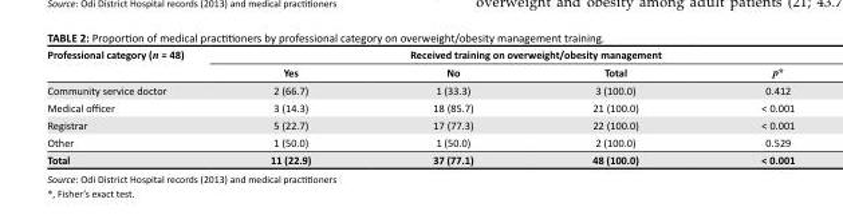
<table><thead><tr><td rowspan="2">Professional category (n = 48)</td><td colspan="4">Received training on overweight/obesity management</td></tr><tr><td>Yes</td><td>No</td><td>Total</td><td>p*</td></tr></thead><tbody><tr><td>Community service doctor</td><td>2 (66.7)</td><td>1 (33.3)</td><td>3 (100.0)</td><td>0.412</td></tr><tr><td>Medical officer</td><td>3 (14.3)</td><td>18 (85.7)</td><td>21 (100.0)</td><td>&lt; 0.001</td></tr><tr><td>Registrar</td><td>5 (22.7)</td><td>17 (77.3)</td><td>22 (100.0)</td><td>&lt; 0.001</td></tr><tr><td>Other</td><td>1 (50.0)</td><td>1 (50.0)</td><td>2 (100.0)</td><td>0.529</td></tr><tr><td>Total</td><td>11 (22.9)</td><td>37 (77.1)</td><td>48 (100.0)</td><td>&lt; 0.001</td></tr></tbody></table>